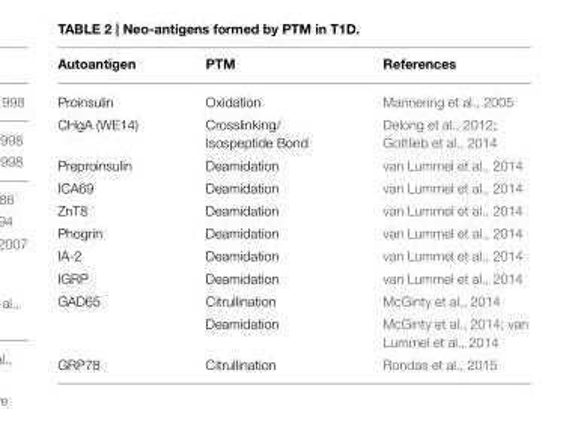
<table><thead><tr><td>Autoantigen</td><td>PTM</td><td>References</td></tr></thead><tbody><tr><td>Proinsulin</td><td>Oxidation</td><td>Mannering et al., 2005</td></tr><tr><td>CHgA (WE14)</td><td>Crosslinking/ Isospeptide Bond</td><td>Delong et al., 2012; Gottlieb et al., 2014</td></tr><tr><td>Preproinsulin</td><td>Deamidation</td><td>van Lummel et al., 2014</td></tr><tr><td>ICA69</td><td>Deamidation</td><td>van Lummel et al., 2014</td></tr><tr><td>ZnT8</td><td>Deamidation</td><td>van Lummel et al., 2014</td></tr><tr><td>Phogrin</td><td>Deamidation</td><td>van Lummel et al., 2014</td></tr><tr><td>IA-2</td><td>Deamidation</td><td>van Lummel et al., 2014</td></tr><tr><td>IGRP</td><td>Deamidation</td><td>van Lummel et al., 2014</td></tr><tr><td rowspan="2">GAD65</td><td>Citrullination</td><td>McGinty et al., 2014</td></tr><tr><td>Deamidation</td><td>McGinty et al., 2014; van Lummel et al., 2014</td></tr><tr><td>GRP78</td><td>Citrullination</td><td>Rondas et al., 2015</td></tr></tbody></table>